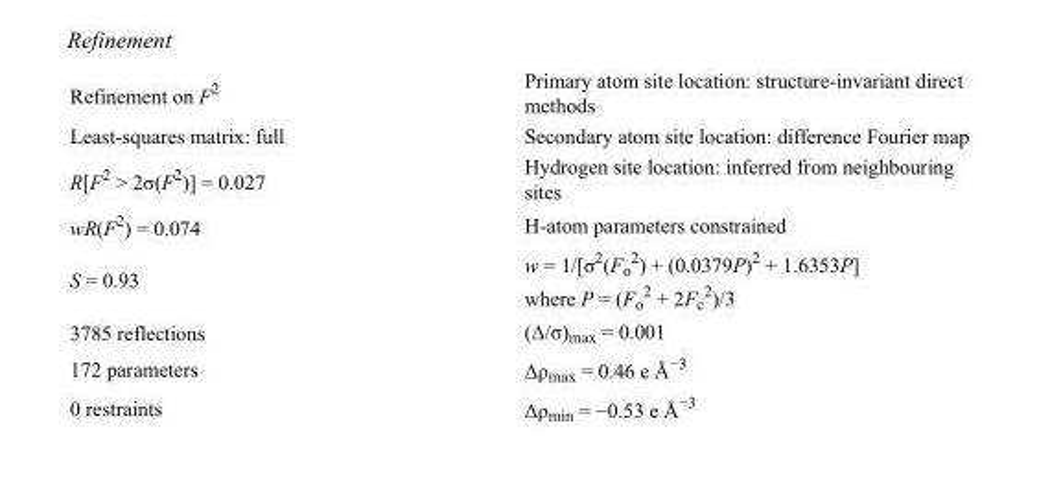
<table><tbody><tr><td>Refinement on F<sup>2</sup></td><td>Primary atom site location: structure-invariant direct methods</td></tr><tr><td>Least-squares matrix: full</td><td>Secondary atom site location: difference Fourier map</td></tr><tr><td>R[F<sup>2</sup> &gt; 2σ(F<sup>2</sup>)] = 0.027</td><td>Hydrogen site location: inferred from neighbouring sites</td></tr><tr><td>wR(F<sup>2</sup>) = 0.074</td><td>H-atom parameters constrained</td></tr><tr><td>S = 0.93</td><td>w = 1/[σ<sup>2</sup>(F<sub>o</sub> <sup>2</sup>) + (0.0379P)<sup>2</sup> + 1.6353P] where P = (F<sub>o</sub> <sup>2</sup> + 2F<sub>c</sub> <sup>2</sup>)/3</td></tr><tr><td>3785 reflections</td><td>(Δ/σ)<sub>max</sub> = 0.001</td></tr><tr><td>172 parameters</td><td>Δρ<sub>max</sub> = 0.46 e Å<sup>−3</sup></td></tr><tr><td>0 restraints</td><td>Δρ<sub>min</sub> = −0.53 e Å<sup>−3</sup></td></tr></tbody></table>